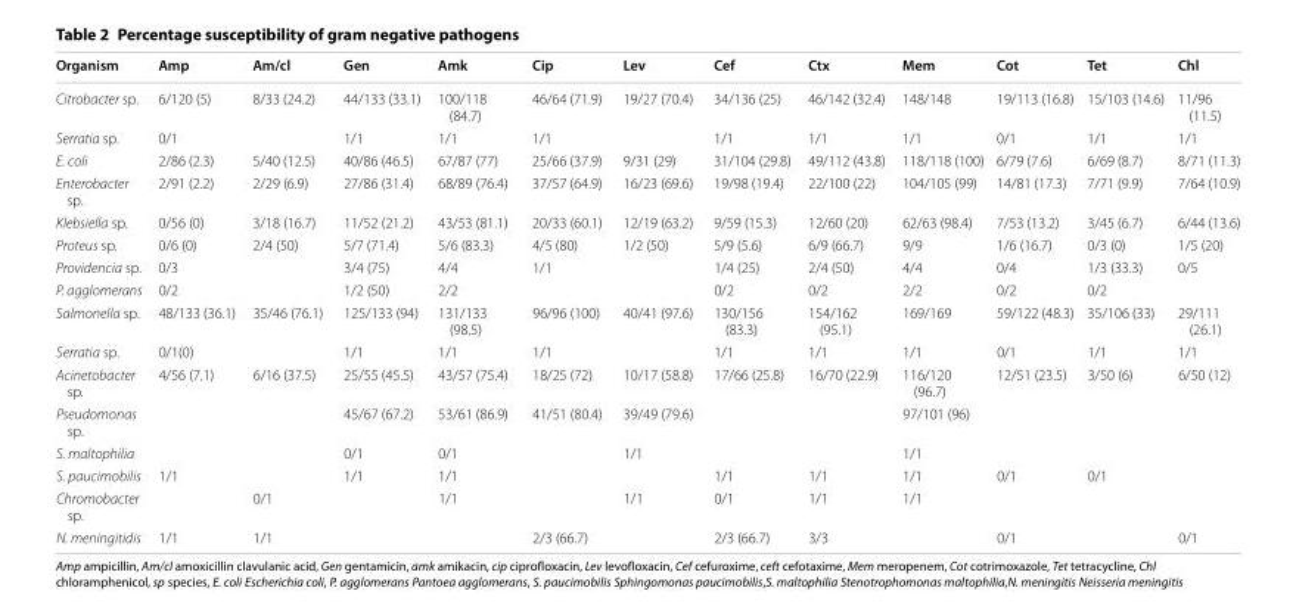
<table><thead><tr><td>Organism</td><td>Amp</td><td>Am/cl</td><td>Gen</td><td>Amk</td><td>Cip</td><td>Lev</td><td>Cef</td><td>Ctx</td><td>Mem</td><td>Cot</td><td>Tet</td><td>Chl</td></tr></thead><tbody><tr><td>Citrobacter sp.</td><td>6/120 (5)</td><td>8/33 (24.2)</td><td>44/133 (33.1)</td><td>100/118 (84.7)</td><td>46/64 (71.9)</td><td>19/27 (70.4)</td><td>34/136 (25)</td><td>46/142 (32.4)</td><td>148/148</td><td>19/113 (16.8)</td><td>15/103 (14.6)</td><td>11/96 (11.5)</td></tr><tr><td>Serratia sp.</td><td>0/1</td><td></td><td>1/1</td><td>1/1</td><td>1/1</td><td></td><td>1/1</td><td>1/1</td><td>1/1</td><td>0/1</td><td>1/1</td><td>1/1</td></tr><tr><td>E. coli</td><td>2/86 (2.3)</td><td>5/40 (12.5)</td><td>40/86 (46.5)</td><td>67/87 (77)</td><td>25/66 (37.9)</td><td>9/31 (29)</td><td>31/104 (29.8)</td><td>49/112 (43.8)</td><td>118/118 (100)</td><td>6/79 (7.6)</td><td>6/69 (8.7)</td><td>8/71 (11.3)</td></tr><tr><td>Enterobacter sp.</td><td>2/91 (2.2)</td><td>2/29 (6.9)</td><td>27/86 (31.4)</td><td>68/89 (76.4)</td><td>37/57 (64.9)</td><td>16/23 (69.6)</td><td>19/98 (19.4)</td><td>22/100 (22)</td><td>104/105 (99)</td><td>14/81 (17.3)</td><td>7/71 (9.9)</td><td>7/64 (10.9)</td></tr><tr><td>Klebsiella sp.</td><td>0/56 (0)</td><td>3/18 (16.7)</td><td>11/52 (21.2)</td><td>43/53 (81.1)</td><td>20/33 (60.1)</td><td>12/19 (63.2)</td><td>9/59 (15.3)</td><td>12/60 (20)</td><td>62/63 (98.4)</td><td>7/53 (13.2)</td><td>3/45 (6.7)</td><td>6/44 (13.6)</td></tr><tr><td>Proteus sp.</td><td>0/6 (0)</td><td>2/4 (50)</td><td>5/7 (71.4)</td><td>5/6 (83.3)</td><td>4/5 (80)</td><td>1/2 (50)</td><td>5/9 (5.6)</td><td>6/9 (66.7)</td><td>9/9</td><td>1/6 (16.7)</td><td>0/3 (0)</td><td>1/5 (20)</td></tr><tr><td>Providencia sp.</td><td>0/3</td><td></td><td>3/4 (75)</td><td>4/4</td><td>1/1</td><td></td><td>1/4 (25)</td><td>2/4 (50)</td><td>4/4</td><td>0/4</td><td>1/3 (33.3)</td><td>0/5</td></tr><tr><td>P. agglomerans</td><td>0/2</td><td></td><td>1/2 (50)</td><td>2/2</td><td></td><td></td><td>0/2</td><td>0/2</td><td>2/2</td><td>0/2</td><td>0/2</td><td></td></tr><tr><td>Salmonella sp.</td><td>48/133 (36.1)</td><td>35/46 (76.1)</td><td>125/133 (94)</td><td>131/133 (98.5)</td><td>96/96 (100)</td><td>40/41 (97.6)</td><td>130/156 (83.3)</td><td>154/162 (95.1)</td><td>169/169</td><td>59/122 (48.3)</td><td>35/106 (33)</td><td>29/111 (26.1)</td></tr><tr><td>Serratia sp.</td><td>0/1(0)</td><td></td><td>1/1</td><td>1/1</td><td>1/1</td><td></td><td>1/1</td><td>1/1</td><td>1/1</td><td>0/1</td><td>1/1</td><td>1/1</td></tr><tr><td>Acinetobacter sp.</td><td>4/56 (7.1)</td><td>6/16 (37.5)</td><td>25/55 (45.5)</td><td>43/57 (75.4)</td><td>18/25 (72)</td><td>10/17 (58.8)</td><td>17/66 (25.8)</td><td>16/70 (22.9)</td><td>116/120 (96.7)</td><td>12/51 (23.5)</td><td>3/50 (6)</td><td>6/50 (12)</td></tr><tr><td>Pseudomonas sp.</td><td></td><td></td><td>45/67 (67.2)</td><td>53/61 (86.9)</td><td>41/51 (80.4)</td><td>39/49 (79.6)</td><td></td><td></td><td>97/101 (96)</td><td></td><td></td><td></td></tr><tr><td>S. maltophilia</td><td></td><td></td><td>0/1</td><td>0/1</td><td></td><td>1/1</td><td></td><td></td><td>1/1</td><td></td><td></td><td></td></tr><tr><td>S. paucimobilis</td><td>1/1</td><td></td><td>1/1</td><td>1/1</td><td></td><td></td><td>1/1</td><td>1/1</td><td>1/1</td><td>0/1</td><td>0/1</td><td></td></tr><tr><td>Chromobacter sp.</td><td></td><td>0/1</td><td></td><td>1/1</td><td></td><td>1/1</td><td>0/1</td><td>1/1</td><td>1/1</td><td></td><td></td><td></td></tr><tr><td>N. meningitidis</td><td>1/1</td><td>1/1</td><td></td><td></td><td>2/3 (66.7)</td><td></td><td>2/3 (66.7)</td><td>3/3</td><td></td><td>0/1</td><td></td><td>0/1</td></tr></tbody></table>